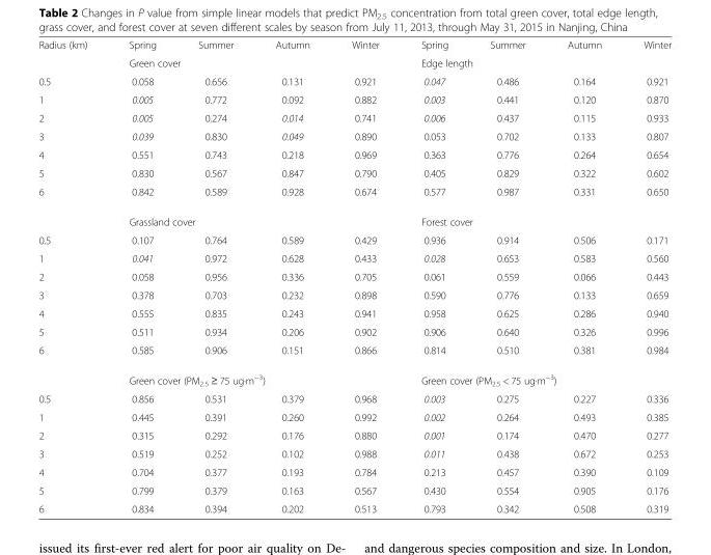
<table><tbody><tr><td rowspan="2">Radius (km)</td><td>Spring</td><td>Summer</td><td>Autumn</td><td>Winter</td><td>Spring</td><td>Summer</td><td>Autumn</td><td>Winter</td></tr><tr><td colspan="4">Green cover</td><td colspan="4">Edge length</td></tr><tr><td>0.5</td><td>0.058</td><td>0.656</td><td>0.131</td><td>0.921</td><td>0.047</td><td>0.486</td><td>0.164</td><td>0.921</td></tr><tr><td>1</td><td>0.005</td><td>0.772</td><td>0.092</td><td>0.882</td><td>0.003</td><td>0.441</td><td>0.120</td><td>0.870</td></tr><tr><td>2</td><td>0.005</td><td>0.274</td><td>0.014</td><td>0.741</td><td>0.006</td><td>0.437</td><td>0.115</td><td>0.933</td></tr><tr><td>3</td><td>0.039</td><td>0.830</td><td>0.049</td><td>0.890</td><td>0.053</td><td>0.702</td><td>0.133</td><td>0.807</td></tr><tr><td>4</td><td>0.551</td><td>0.743</td><td>0.218</td><td>0.969</td><td>0.363</td><td>0.776</td><td>0.264</td><td>0.654</td></tr><tr><td>5</td><td>0.830</td><td>0.567</td><td>0.847</td><td>0.790</td><td>0.405</td><td>0.829</td><td>0.322</td><td>0.602</td></tr><tr><td rowspan="2">6</td><td>0.842</td><td>0.589</td><td>0.928</td><td>0.674</td><td>0.577</td><td>0.987</td><td>0.331</td><td>0.650</td></tr><tr><td colspan="4">Grassland cover</td><td colspan="4">Forest cover</td></tr><tr><td>0.5</td><td>0.107</td><td>0.764</td><td>0.589</td><td>0.429</td><td>0.936</td><td>0.914</td><td>0.506</td><td>0.171</td></tr><tr><td>1</td><td>0.041</td><td>0.972</td><td>0.628</td><td>0.433</td><td>0.028</td><td>0.653</td><td>0.583</td><td>0.560</td></tr><tr><td>2</td><td>0.058</td><td>0.956</td><td>0.336</td><td>0.705</td><td>0.061</td><td>0.559</td><td>0.066</td><td>0.443</td></tr><tr><td>3</td><td>0.378</td><td>0.703</td><td>0.232</td><td>0.898</td><td>0.590</td><td>0.776</td><td>0.133</td><td>0.659</td></tr><tr><td>4</td><td>0.555</td><td>0.835</td><td>0.243</td><td>0.941</td><td>0.958</td><td>0.625</td><td>0.286</td><td>0.940</td></tr><tr><td>5</td><td>0.511</td><td>0.934</td><td>0.206</td><td>0.902</td><td>0.906</td><td>0.640</td><td>0.326</td><td>0.996</td></tr><tr><td rowspan="2">6</td><td>0.585</td><td>0.906</td><td>0.151</td><td>0.866</td><td>0.814</td><td>0.510</td><td>0.381</td><td>0.984</td></tr><tr><td colspan="4">Green cover (PM<sub>2.5</sub> ≥ 75 ug·m<sup>−3</sup>)</td><td colspan="4">Green cover (PM<sub>2.5</sub> &lt; 75 ug·m<sup>−3</sup>)</td></tr><tr><td>0.5</td><td>0.856</td><td>0.531</td><td>0.379</td><td>0.968</td><td>0.003</td><td>0.275</td><td>0.227</td><td>0.336</td></tr><tr><td>1</td><td>0.445</td><td>0.391</td><td>0.260</td><td>0.992</td><td>0.002</td><td>0.264</td><td>0.493</td><td>0.385</td></tr><tr><td>2</td><td>0.315</td><td>0.292</td><td>0.176</td><td>0.880</td><td>0.001</td><td>0.174</td><td>0.470</td><td>0.277</td></tr><tr><td>3</td><td>0.519</td><td>0.252</td><td>0.102</td><td>0.988</td><td>0.011</td><td>0.438</td><td>0.672</td><td>0.253</td></tr><tr><td>4</td><td>0.704</td><td>0.377</td><td>0.193</td><td>0.784</td><td>0.213</td><td>0.457</td><td>0.390</td><td>0.109</td></tr><tr><td>5</td><td>0.799</td><td>0.379</td><td>0.163</td><td>0.567</td><td>0.430</td><td>0.554</td><td>0.905</td><td>0.176</td></tr><tr><td>6</td><td>0.834</td><td>0.394</td><td>0.202</td><td>0.513</td><td>0.793</td><td>0.342</td><td>0.508</td><td>0.319</td></tr></tbody></table>